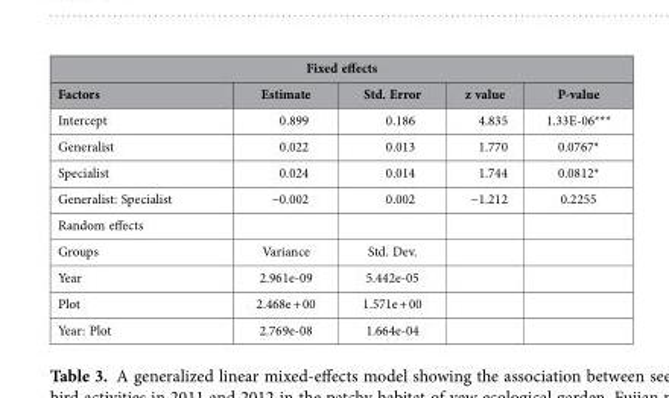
<table><thead><tr><td colspan="5">Fixed effects</td></tr><tr><td>Factors</td><td>Estimate</td><td>Std. Error</td><td>z value</td><td>P-value</td></tr></thead><tbody><tr><td>Intercept</td><td>0.899</td><td>0.186</td><td>4.835</td><td>1.33E-06***</td></tr><tr><td>Generalist</td><td>0.022</td><td>0.013</td><td>1.770</td><td>0.0767*</td></tr><tr><td>Specialist</td><td>0.024</td><td>0.014</td><td>1.744</td><td>0.0812*</td></tr><tr><td>Generalist: Specialist</td><td>−0.002</td><td>0.002</td><td>−1.212</td><td>0.2255</td></tr><tr><td colspan="5">Random effects</td></tr><tr><td>Groups</td><td>Variance</td><td>Std. Dev.</td><td></td><td></td></tr><tr><td>Year</td><td>2.961e-09</td><td>5.442e-05</td><td></td><td></td></tr><tr><td>Plot</td><td>2.468e + 00</td><td>1.571e + 00</td><td></td><td></td></tr><tr><td>Year: Plot</td><td>2.769e-08</td><td>1.664e-04</td><td></td><td></td></tr></tbody></table>